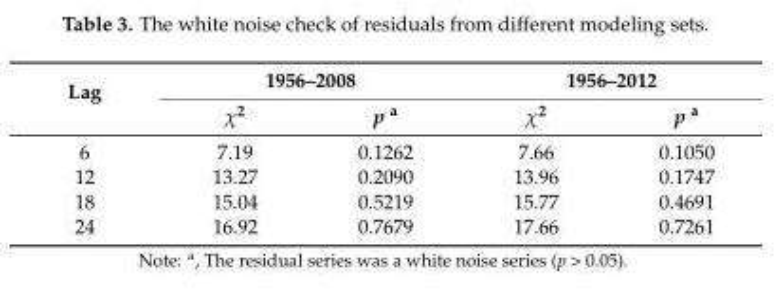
<table><thead><tr><td rowspan="2">Lag</td><td colspan="2">1956–2008</td><td colspan="2">1956–2012</td></tr><tr><td>χ<sup>2</sup></td><td>p <sup>a</sup></td><td>χ<sup>2</sup></td><td>p <sup>a</sup></td></tr></thead><tbody><tr><td>6</td><td>7.19</td><td>0.1262</td><td>7.66</td><td>0.1050</td></tr><tr><td>12</td><td>13.27</td><td>0.2090</td><td>13.96</td><td>0.1747</td></tr><tr><td>18</td><td>15.04</td><td>0.5219</td><td>15.77</td><td>0.4691</td></tr><tr><td>24</td><td>16.92</td><td>0.7679</td><td>17.66</td><td>0.7261</td></tr></tbody></table>